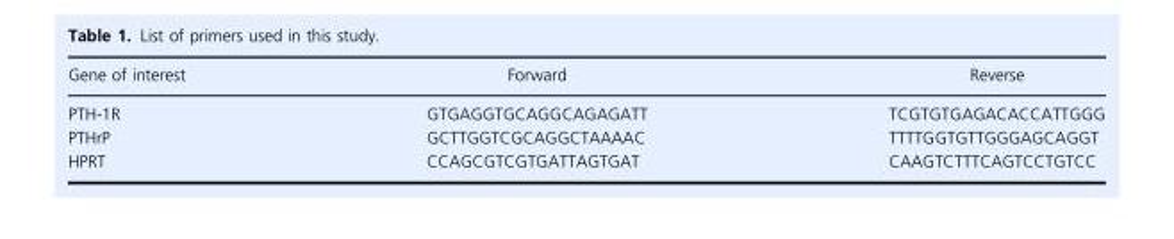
<table><thead><tr><td>Gene of interest</td><td>Forward</td><td>Reverse</td></tr></thead><tbody><tr><td>PTH-1R</td><td>GTGAGGTGCAGGCAGAGATT</td><td>TCGTGTGAGACACCATTGGG</td></tr><tr><td>PTHrP</td><td>GCTTGGTCGCAGGCTAAAAC</td><td>TTTTGGTGTTGGGAGCAGGT</td></tr><tr><td>HPRT</td><td>CCAGCGTCGTGATTAGTGAT</td><td>CAAGTCTTTCAGTCCTGTCC</td></tr></tbody></table>